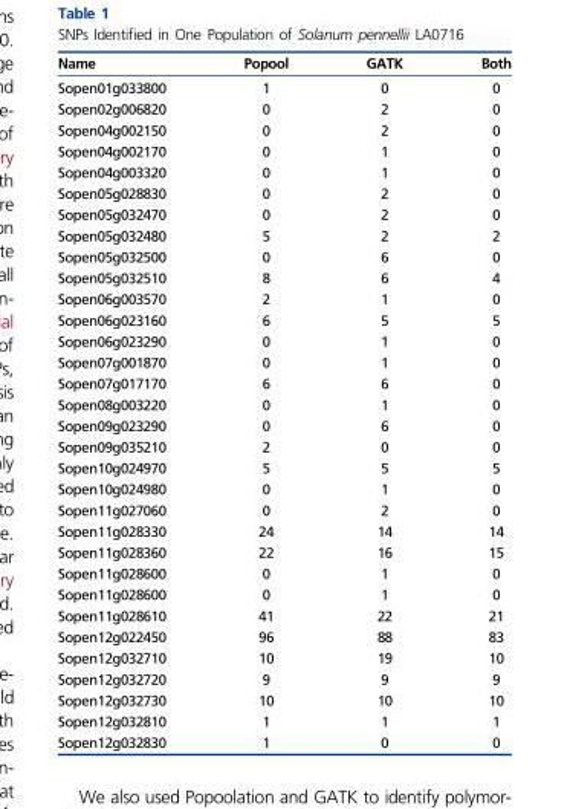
<table><thead><tr><td>Name</td><td>Popool</td><td>GATK</td><td>Both</td></tr></thead><tbody><tr><td>Sopen01g033800</td><td>1</td><td>0</td><td>0</td></tr><tr><td>Sopen02g006820</td><td>0</td><td>2</td><td>0</td></tr><tr><td>Sopen04g002150</td><td>0</td><td>2</td><td>0</td></tr><tr><td>Sopen04g002170</td><td>0</td><td>1</td><td>0</td></tr><tr><td>Sopen04g003320</td><td>0</td><td>1</td><td>0</td></tr><tr><td>Sopen05g028830</td><td>0</td><td>2</td><td>0</td></tr><tr><td>Sopen05g032470</td><td>0</td><td>2</td><td>0</td></tr><tr><td>Sopen05g032480</td><td>5</td><td>2</td><td>2</td></tr><tr><td>Sopen05g032500</td><td>0</td><td>6</td><td>0</td></tr><tr><td>Sopen05g032510</td><td>8</td><td>6</td><td>4</td></tr><tr><td>Sopen06g003570</td><td>2</td><td>1</td><td>0</td></tr><tr><td>Sopen06g023160</td><td>6</td><td>5</td><td>5</td></tr><tr><td>Sopen06g023290</td><td>0</td><td>1</td><td>0</td></tr><tr><td>Sopen07g001870</td><td>0</td><td>1</td><td>0</td></tr><tr><td>Sopen07g017170</td><td>6</td><td>6</td><td>0</td></tr><tr><td>Sopen08g003220</td><td>0</td><td>1</td><td>0</td></tr><tr><td>Sopen09g023290</td><td>0</td><td>6</td><td>0</td></tr><tr><td>Sopen09g035210</td><td>2</td><td>0</td><td>0</td></tr><tr><td>Sopen10g024970</td><td>5</td><td>5</td><td>5</td></tr><tr><td>Sopen10g024980</td><td>0</td><td>1</td><td>0</td></tr><tr><td>Sopen11g027060</td><td>0</td><td>2</td><td>0</td></tr><tr><td>Sopen11g028330</td><td>24</td><td>14</td><td>14</td></tr><tr><td>Sopen11g028360</td><td>22</td><td>16</td><td>15</td></tr><tr><td>Sopen11g028600</td><td>0</td><td>1</td><td>0</td></tr><tr><td>Sopen11g028600</td><td>0</td><td>1</td><td>0</td></tr><tr><td>Sopen11g028610</td><td>41</td><td>22</td><td>21</td></tr><tr><td>Sopen12g022450</td><td>96</td><td>88</td><td>83</td></tr><tr><td>Sopen12g032710</td><td>10</td><td>19</td><td>10</td></tr><tr><td>Sopen12g032720</td><td>9</td><td>9</td><td>9</td></tr><tr><td>Sopen12g032730</td><td>10</td><td>10</td><td>10</td></tr><tr><td>Sopen12g032810</td><td>1</td><td>1</td><td>1</td></tr><tr><td>Sopen12g032830</td><td>1</td><td>0</td><td>0</td></tr></tbody></table>